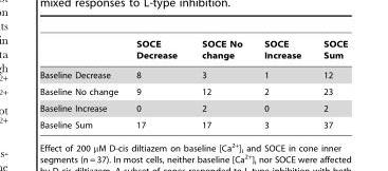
<table><thead><tr><td></td><td>SOCE Decrease</td><td>SOCE No change</td><td>SOCE Increase</td><td>SOCE Sum</td></tr></thead><tbody><tr><td>Baseline Decrease</td><td>8</td><td>3</td><td>1</td><td>12</td></tr><tr><td>Baseline No change</td><td>9</td><td>12</td><td>2</td><td>23</td></tr><tr><td>Baseline Increase</td><td>0</td><td>2</td><td>0</td><td>2</td></tr><tr><td>Baseline Sum</td><td>17</td><td>17</td><td>3</td><td>37</td></tr></tbody></table>